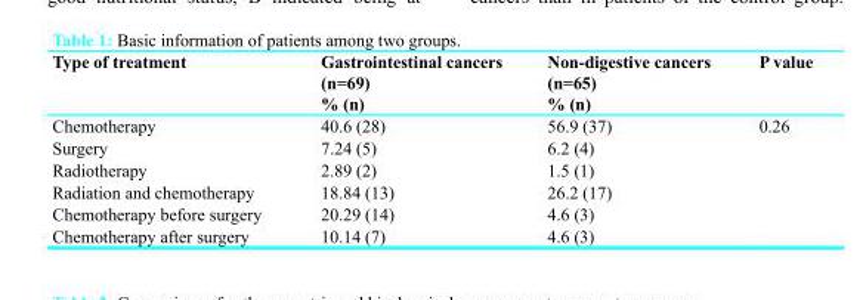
<table><thead><tr><td>Type of treatment</td><td>Gastrointestinal cancers (n=69) % (n)</td><td>Non-digestive cancers (n=65) % (n)</td><td>P value</td></tr></thead><tbody><tr><td>Chemotherapy</td><td>40.6 (28)</td><td>56.9 (37)</td><td rowspan="6">0.26</td></tr><tr><td>Surgery</td><td>7.24 (5)</td><td>6.2 (4)</td></tr><tr><td>Radiotherapy</td><td>2.89 (2)</td><td>1.5 (1)</td></tr><tr><td>Radiation and chemotherapy</td><td>18.84 (13)</td><td>26.2 (17)</td></tr><tr><td>Chemotherapy before surgery</td><td>20.29 (14)</td><td>4.6 (3)</td></tr><tr><td>Chemotherapy after surgery</td><td>10.14 (7)</td><td>4.6 (3)</td></tr></tbody></table>